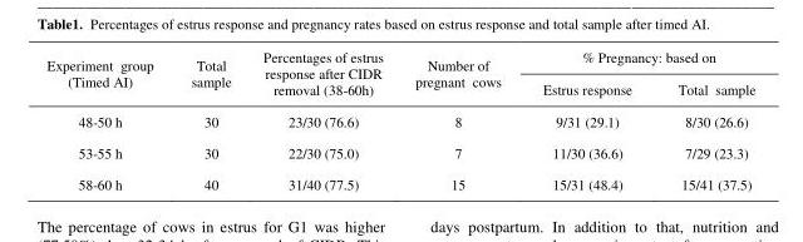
<table><thead><tr><td rowspan="2">Experiment group (Timed AI)</td><td rowspan="2">Total sample</td><td rowspan="2">Percentages of estrus response after CIDR removal (38-60h)</td><td rowspan="2">Number of pregnant cows</td><td colspan="2">% Pregnancy: based on</td></tr><tr><td>Estrus response</td><td>Total sample</td></tr></thead><tbody><tr><td>48-50 h</td><td>30</td><td>23/30 (76.6)</td><td>8</td><td>9/31 (29.1)</td><td>8/30 (26.6)</td></tr><tr><td>53-55 h</td><td>30</td><td>22/30 (75.0)</td><td>7</td><td>11/30 (36.6)</td><td>7/29 (23.3)</td></tr><tr><td>58-60 h</td><td>40</td><td>31/40 (77.5)</td><td>15</td><td>15/31 (48.4)</td><td>15/41 (37.5)</td></tr></tbody></table>